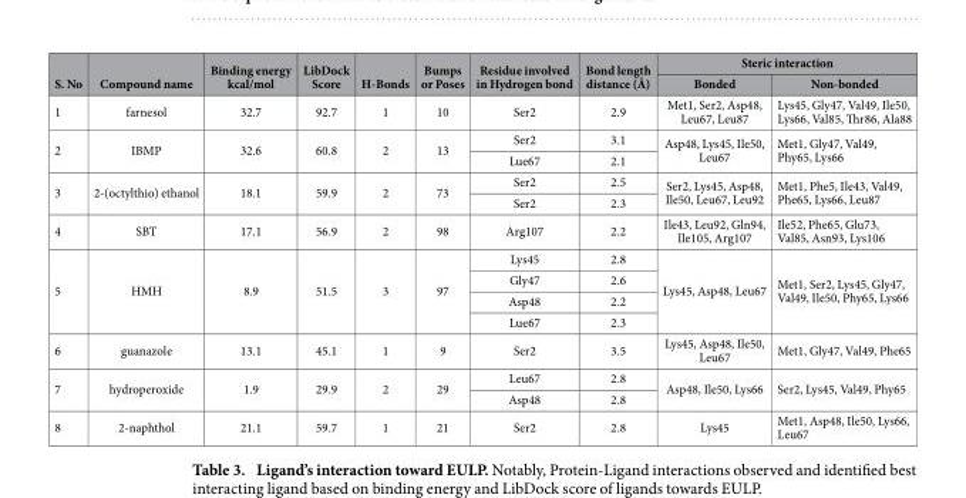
<table><thead><tr><td rowspan="2">S. No</td><td rowspan="2">Compound name</td><td rowspan="2">Binding energy kcal/mol</td><td rowspan="2">LibDock Score</td><td rowspan="2">H-Bonds</td><td rowspan="2">Bumps or Poses</td><td rowspan="2">Residue involved in Hydrogen bond</td><td rowspan="2">Bond length distance (Å)</td><td colspan="2">Steric interaction</td></tr><tr><td>Bonded</td><td>Non-bonded</td></tr></thead><tbody><tr><td>1</td><td>farnesol</td><td>32.7</td><td>92.7</td><td>1</td><td>10</td><td>Ser2</td><td>2.9</td><td>Met1, Ser2, Asp48, Leu67, Leu87</td><td>Lys45, Gly47, Val49, Ile50, Lys66, Val85, Thr86, Ala88</td></tr><tr><td rowspan="2">2</td><td rowspan="2">IBMP</td><td rowspan="2">32.6</td><td rowspan="2">60.8</td><td rowspan="2">2</td><td rowspan="2">13</td><td>Ser2</td><td>3.1</td><td rowspan="2">Asp48, Lys45, Ile50, Leu67</td><td rowspan="2">Met1, Gly47, Val49, Phy65, Lys66</td></tr><tr><td>Lue67</td><td>2.1</td></tr><tr><td rowspan="2">3</td><td rowspan="2">2-(octylthio) ethanol</td><td rowspan="2">18.1</td><td rowspan="2">59.9</td><td rowspan="2">2</td><td rowspan="2">73</td><td>Ser2</td><td>2.5</td><td rowspan="2">Ser2, Lys45, Asp48, Ile50, Leu67, Leu92</td><td rowspan="2">Met1, Phe5, Ile43, Val49, Phe65, Lys66, Leu87</td></tr><tr><td>Ser2</td><td>2.3</td></tr><tr><td>4</td><td>SBT</td><td>17.1</td><td>56.9</td><td>2</td><td>98</td><td>Arg107</td><td>2.2</td><td>Ile43, Leu92, Gln94, Ile105, Arg107</td><td>Ile52, Phe65, Glu73, Val85, Asn93, Lys106</td></tr><tr><td rowspan="4">5</td><td rowspan="4">HMH</td><td rowspan="4">8.9</td><td rowspan="4">51.5</td><td rowspan="4">3</td><td rowspan="4">97</td><td>Lys45</td><td>2.8</td><td rowspan="4">Lys45, Asp48, Leu67</td><td rowspan="4">Met1, Ser2, Lys45, Gly47, Val49, Ile50, Phy65, Lys66</td></tr><tr><td>Gly47</td><td>2.6</td></tr><tr><td>Asp48</td><td>2.2</td></tr><tr><td>Lue67</td><td>2.3</td></tr><tr><td>6</td><td>guanazole</td><td>13.1</td><td>45.1</td><td>1</td><td>9</td><td>Ser2</td><td>3.5</td><td>Lys45, Asp48, Ile50, Leu67</td><td>Met1, Gly47, Val49, Phe65</td></tr><tr><td rowspan="2">7</td><td rowspan="2">hydroperoxide</td><td rowspan="2">1.9</td><td rowspan="2">29.9</td><td rowspan="2">2</td><td rowspan="2">29</td><td>Leu67</td><td>2.8</td><td rowspan="2">Asp48, Ile50, Lys66</td><td rowspan="2">Ser2, Lys45, Val49, Phy65</td></tr><tr><td>Asp48</td><td>2.8</td></tr><tr><td>8</td><td>2-naphthol</td><td>21.1</td><td>59.7</td><td>1</td><td>21</td><td>Ser2</td><td>2.8</td><td>Lys45</td><td>Met1, Asp48, Ile50, Lys66, Leu67</td></tr></tbody></table>